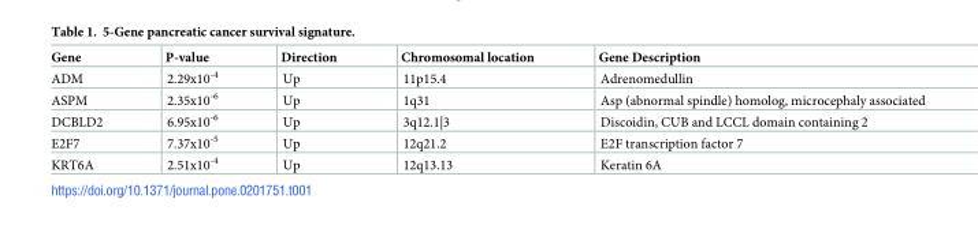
<table><thead><tr><td>Gene</td><td>P-value</td><td>Direction</td><td>Chromosomal location</td><td>Gene Description</td></tr></thead><tbody><tr><td>ADM</td><td>2.29x10<sup>-4</sup></td><td>Up</td><td>11p15.4</td><td>Adrenomedullin</td></tr><tr><td>ASPM</td><td>2.35x10<sup>-6</sup></td><td>Up</td><td>1q31</td><td>Asp (abnormal spindle) homolog, microcephaly associated</td></tr><tr><td>DCBLD2</td><td>6.95x10<sup>-6</sup></td><td>Up</td><td>3q12.1|3</td><td>Discoidin, CUB and LCCL domain containing 2</td></tr><tr><td>E2F7</td><td>7.37x10<sup>-5</sup></td><td>Up</td><td>12q21.2</td><td>E2F transcription factor 7</td></tr><tr><td>KRT6A</td><td>2.51x10<sup>-4</sup></td><td>Up</td><td>12q13.13</td><td>Keratin 6A</td></tr></tbody></table>